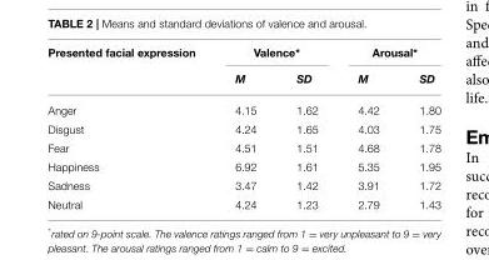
<table><thead><tr><td rowspan="2">Presented facial expression</td><td colspan="2">Valence*</td><td colspan="2">Arousal*</td></tr><tr><td>M</td><td>SD</td><td>M</td><td>SD</td></tr></thead><tbody><tr><td>Anger</td><td>4.15</td><td>1.62</td><td>4.42</td><td>1.80</td></tr><tr><td>Disgust</td><td>4.24</td><td>1.65</td><td>4.03</td><td>1.75</td></tr><tr><td>Fear</td><td>4.51</td><td>1.51</td><td>4.68</td><td>1.78</td></tr><tr><td>Happiness</td><td>6.92</td><td>1.61</td><td>5.35</td><td>1.95</td></tr><tr><td>Sadness</td><td>3.47</td><td>1.42</td><td>3.91</td><td>1.72</td></tr><tr><td>Neutral</td><td>4.24</td><td>1.23</td><td>2.79</td><td>1.43</td></tr></tbody></table>